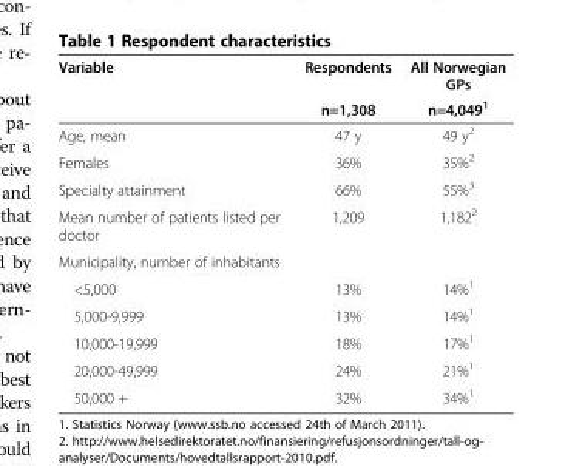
<table><thead><tr><td rowspan="2">Variable</td><td rowspan="2">Respondents n=1,308</td><td rowspan="2">All Norwegian GPs n=4,049<sup>1</sup></td></tr><tr></tr></thead><tbody><tr><td>Age, mean</td><td>47 y</td><td>49 y<sup>2</sup></td></tr><tr><td>Females</td><td>36%</td><td>35%<sup>2</sup></td></tr><tr><td>Specialty attainment</td><td>66%</td><td>55%<sup>3</sup></td></tr><tr><td>Mean number of patients listed per doctor</td><td>1,209</td><td>1,182<sup>2</sup></td></tr><tr><td colspan="3">Municipality, number of inhabitants</td></tr><tr><td>&lt;5,000</td><td>13%</td><td>14%<sup>1</sup></td></tr><tr><td>5,000-9,999</td><td>13%</td><td>14%<sup>1</sup></td></tr><tr><td>10,000-19,999</td><td>18%</td><td>17%<sup>1</sup></td></tr><tr><td>20,000-49,999</td><td>24%</td><td>21%<sup>1</sup></td></tr><tr><td>50,000 +</td><td>32%</td><td>34%<sup>1</sup></td></tr></tbody></table>